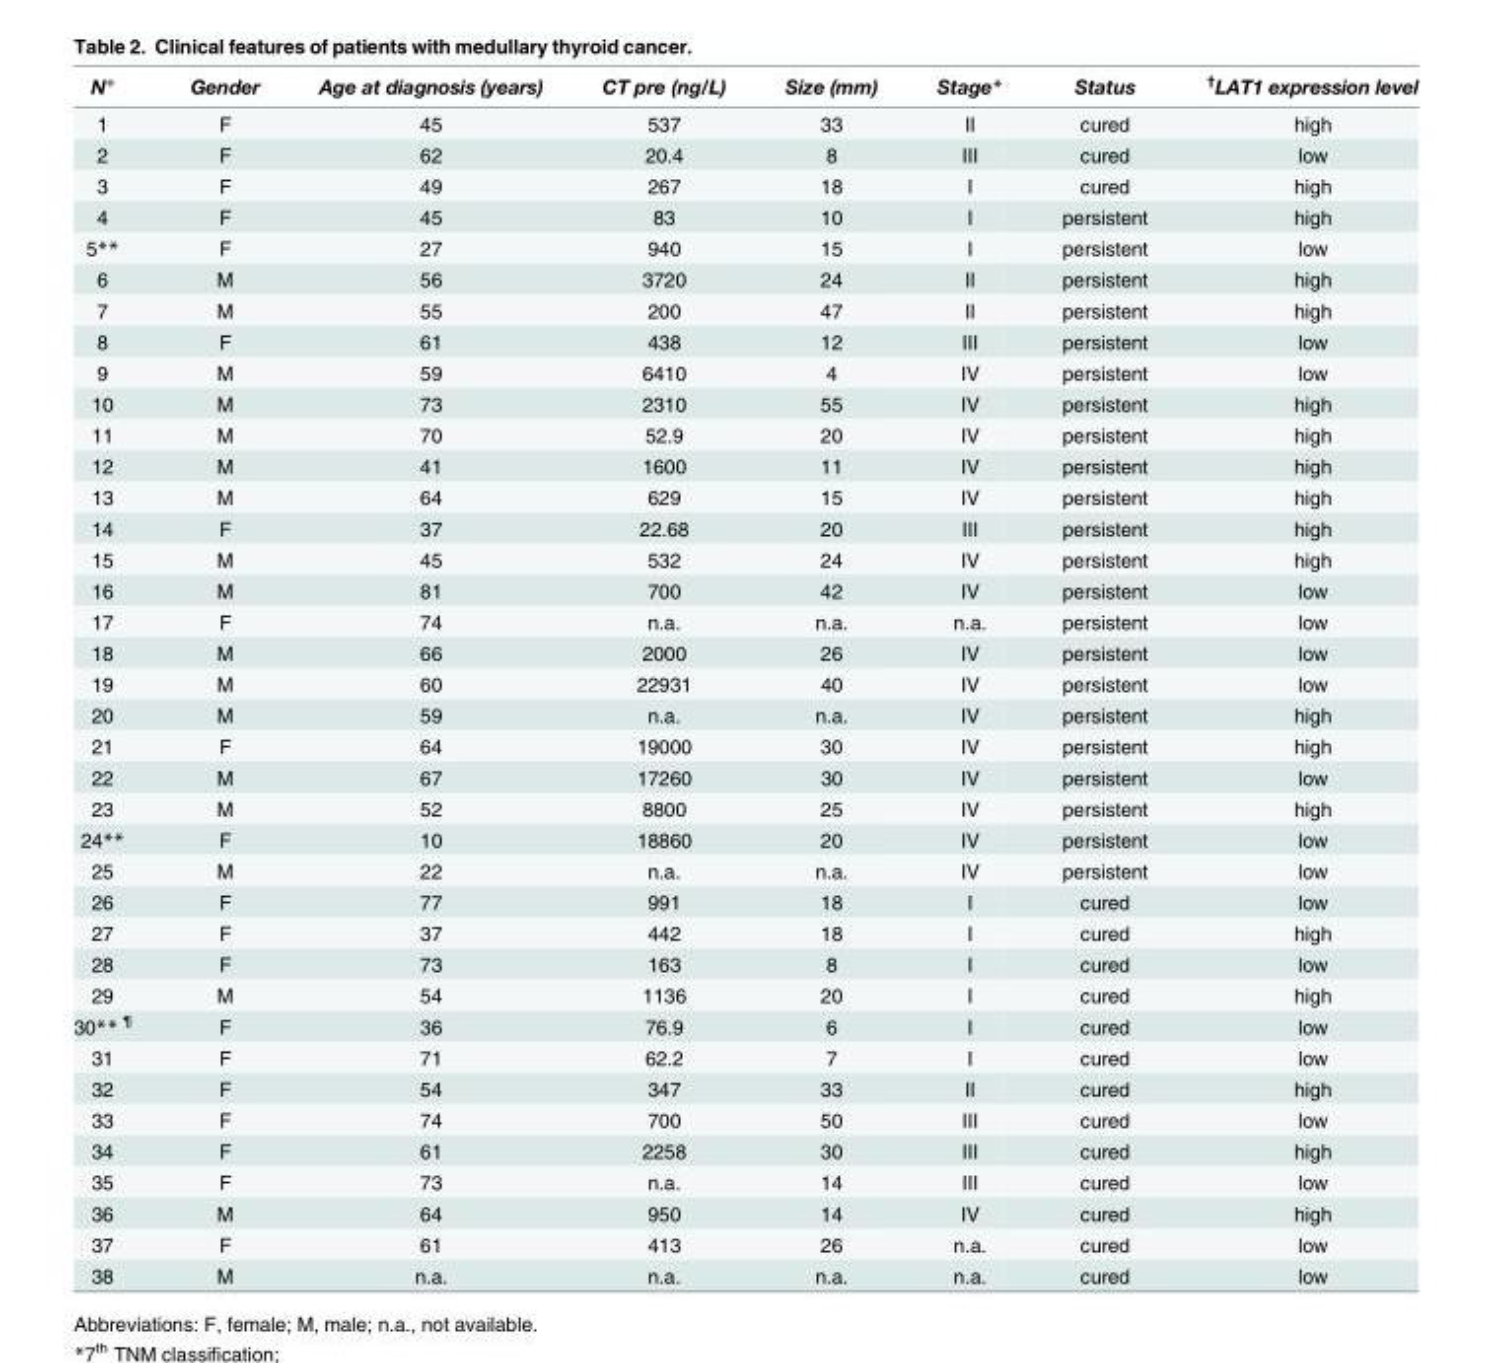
<table><thead><tr><td>N°</td><td>Gender</td><td>Age at diagnosis (years)</td><td>CT pre (ng/L)</td><td>Size (mm)</td><td>Stage*</td><td>Status</td><td><sup>†</sup>LAT1 expression level</td></tr></thead><tbody><tr><td>1</td><td>F</td><td>45</td><td>537</td><td>33</td><td>II</td><td>cured</td><td>high</td></tr><tr><td>2</td><td>F</td><td>62</td><td>20.4</td><td>8</td><td>III</td><td>cured</td><td>low</td></tr><tr><td>3</td><td>F</td><td>49</td><td>267</td><td>18</td><td>I</td><td>cured</td><td>high</td></tr><tr><td>4</td><td>F</td><td>45</td><td>83</td><td>10</td><td>I</td><td>persistent</td><td>high</td></tr><tr><td>5**</td><td>F</td><td>27</td><td>940</td><td>15</td><td>I</td><td>persistent</td><td>low</td></tr><tr><td>6</td><td>M</td><td>56</td><td>3720</td><td>24</td><td>II</td><td>persistent</td><td>high</td></tr><tr><td>7</td><td>M</td><td>55</td><td>200</td><td>47</td><td>II</td><td>persistent</td><td>high</td></tr><tr><td>8</td><td>F</td><td>61</td><td>438</td><td>12</td><td>III</td><td>persistent</td><td>low</td></tr><tr><td>9</td><td>M</td><td>59</td><td>6410</td><td>4</td><td>IV</td><td>persistent</td><td>low</td></tr><tr><td>10</td><td>M</td><td>73</td><td>2310</td><td>55</td><td>IV</td><td>persistent</td><td>high</td></tr><tr><td>11</td><td>M</td><td>70</td><td>52.9</td><td>20</td><td>IV</td><td>persistent</td><td>high</td></tr><tr><td>12</td><td>M</td><td>41</td><td>1600</td><td>11</td><td>IV</td><td>persistent</td><td>high</td></tr><tr><td>13</td><td>M</td><td>64</td><td>629</td><td>15</td><td>IV</td><td>persistent</td><td>high</td></tr><tr><td>14</td><td>F</td><td>37</td><td>22.68</td><td>20</td><td>III</td><td>persistent</td><td>high</td></tr><tr><td>15</td><td>M</td><td>45</td><td>532</td><td>24</td><td>IV</td><td>persistent</td><td>high</td></tr><tr><td>16</td><td>M</td><td>81</td><td>700</td><td>42</td><td>IV</td><td>persistent</td><td>low</td></tr><tr><td>17</td><td>F</td><td>74</td><td>n.a.</td><td>n.a.</td><td>n.a.</td><td>persistent</td><td>low</td></tr><tr><td>18</td><td>M</td><td>66</td><td>2000</td><td>26</td><td>IV</td><td>persistent</td><td>low</td></tr><tr><td>19</td><td>M</td><td>60</td><td>22931</td><td>40</td><td>IV</td><td>persistent</td><td>low</td></tr><tr><td>20</td><td>M</td><td>59</td><td>n.a.</td><td>n.a.</td><td>IV</td><td>persistent</td><td>high</td></tr><tr><td>21</td><td>F</td><td>64</td><td>19000</td><td>30</td><td>IV</td><td>persistent</td><td>high</td></tr><tr><td>22</td><td>M</td><td>67</td><td>17260</td><td>30</td><td>IV</td><td>persistent</td><td>low</td></tr><tr><td>23</td><td>M</td><td>52</td><td>8800</td><td>25</td><td>IV</td><td>persistent</td><td>high</td></tr><tr><td>24**</td><td>F</td><td>10</td><td>18860</td><td>20</td><td>IV</td><td>persistent</td><td>low</td></tr><tr><td>25</td><td>M</td><td>22</td><td>n.a.</td><td>n.a.</td><td>IV</td><td>persistent</td><td>low</td></tr><tr><td>26</td><td>F</td><td>77</td><td>991</td><td>18</td><td>I</td><td>cured</td><td>low</td></tr><tr><td>27</td><td>F</td><td>37</td><td>442</td><td>18</td><td>I</td><td>cured</td><td>high</td></tr><tr><td>28</td><td>F</td><td>73</td><td>163</td><td>8</td><td>I</td><td>cured</td><td>low</td></tr><tr><td>29</td><td>M</td><td>54</td><td>1136</td><td>20</td><td>I</td><td>cured</td><td>high</td></tr><tr><td>30** <sup>¶</sup></td><td>F</td><td>36</td><td>76.9</td><td>6</td><td>I</td><td>cured</td><td>low</td></tr><tr><td>31</td><td>F</td><td>71</td><td>62.2</td><td>7</td><td>I</td><td>cured</td><td>low</td></tr><tr><td>32</td><td>F</td><td>54</td><td>347</td><td>33</td><td>II</td><td>cured</td><td>high</td></tr><tr><td>33</td><td>F</td><td>74</td><td>700</td><td>50</td><td>III</td><td>cured</td><td>low</td></tr><tr><td>34</td><td>F</td><td>61</td><td>2258</td><td>30</td><td>III</td><td>cured</td><td>high</td></tr><tr><td>35</td><td>F</td><td>73</td><td>n.a.</td><td>14</td><td>III</td><td>cured</td><td>low</td></tr><tr><td>36</td><td>M</td><td>64</td><td>950</td><td>14</td><td>IV</td><td>cured</td><td>high</td></tr><tr><td>37</td><td>F</td><td>61</td><td>413</td><td>26</td><td>n.a.</td><td>cured</td><td>low</td></tr><tr><td>38</td><td>M</td><td>n.a.</td><td>n.a.</td><td>n.a.</td><td>n.a.</td><td>cured</td><td>low</td></tr></tbody></table>